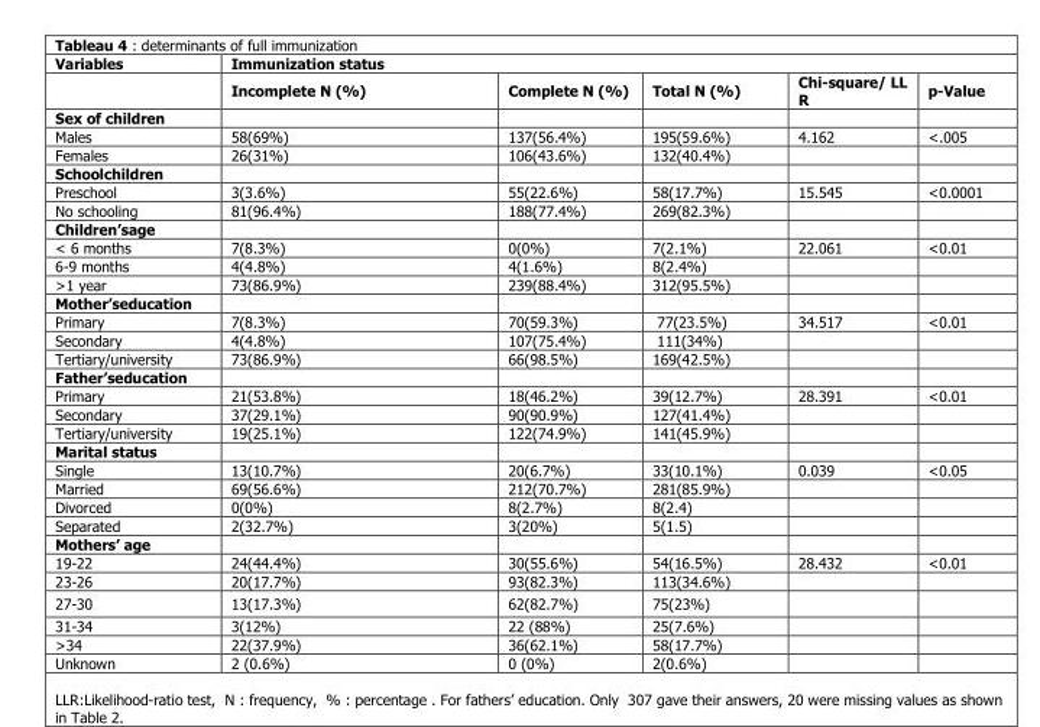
<table><thead><tr><td rowspan="2">Variables</td><td colspan="5">Immunization status</td></tr><tr><td>Incomplete N (%)</td><td>Complete N (%)</td><td>Total N (%)</td><td>Chi-square/ LL R</td><td>p-Value</td></tr></thead><tbody><tr><td colspan="6">Sex of children</td></tr><tr><td>Males</td><td>58(69%)</td><td>137(56.4%)</td><td>195(59.6%)</td><td>4.162</td><td>&lt;.005</td></tr><tr><td>Females</td><td>26(31%)</td><td>106(43.6%)</td><td>132(40.4%)</td><td></td><td></td></tr><tr><td colspan="6">Schoolchildren</td></tr><tr><td>Preschool</td><td>3(3.6%)</td><td>55(22.6%)</td><td>58(17.7%)</td><td>15.545</td><td>&lt;0.0001</td></tr><tr><td>No schooling</td><td>81(96.4%)</td><td>188(77.4%)</td><td>269(82.3%)</td><td></td><td></td></tr><tr><td colspan="6">Children’sage</td></tr><tr><td>&lt; 6 months</td><td>7(8.3%)</td><td>0(0%)</td><td>7(2.1%)</td><td>22.061</td><td>&lt;0.01</td></tr><tr><td>6-9 months</td><td>4(4.8%)</td><td>4(1.6%)</td><td>8(2.4%)</td><td></td><td></td></tr><tr><td>&gt;1 year</td><td>73(86.9%)</td><td>239(88.4%)</td><td>312(95.5%)</td><td></td><td></td></tr><tr><td colspan="6">Mother’seducation</td></tr><tr><td>Primary</td><td>7(8.3%)</td><td>70(59.3%)</td><td>77(23.5%)</td><td>34.517</td><td>&lt;0.01</td></tr><tr><td>Secondary</td><td>4(4.8%)</td><td>107(75.4%)</td><td>111(34%)</td><td></td><td></td></tr><tr><td>Tertiary/university</td><td>73(86.9%)</td><td>66(98.5%)</td><td>169(42.5%)</td><td></td><td></td></tr><tr><td colspan="6">Father’seducation</td></tr><tr><td>Primary</td><td>21(53.8%)</td><td>18(46.2%)</td><td>39(12.7%)</td><td>28.391</td><td>&lt;0.01</td></tr><tr><td>Secondary</td><td>37(29.1%)</td><td>90(90.9%)</td><td>127(41.4%)</td><td></td><td></td></tr><tr><td>Tertiary/university</td><td>19(25.1%)</td><td>122(74.9%)</td><td>141(45.9%)</td><td></td><td></td></tr><tr><td colspan="6">Marital status</td></tr><tr><td>Single</td><td>13(10.7%)</td><td>20(6.7%)</td><td>33(10.1%)</td><td>0.039</td><td>&lt;0.05</td></tr><tr><td>Married</td><td>69(56.6%)</td><td>212(70.7%)</td><td>281(85.9%)</td><td></td><td></td></tr><tr><td>Divorced</td><td>0(0%)</td><td>8(2.7%)</td><td>8(2.4)</td><td></td><td></td></tr><tr><td>Separated</td><td>2(32.7%)</td><td>3(20%)</td><td>5(1.5)</td><td></td><td></td></tr><tr><td colspan="6">Mothers’ age</td></tr><tr><td>19-22</td><td>24(44.4%)</td><td>30(55.6%)</td><td>54(16.5%)</td><td>28.432</td><td>&lt;0.01</td></tr><tr><td>23-26</td><td>20(17.7%)</td><td>93(82.3%)</td><td>113(34.6%)</td><td></td><td></td></tr><tr><td>27-30</td><td>13(17.3%)</td><td>62(82.7%)</td><td>75(23%)</td><td></td><td></td></tr><tr><td>31-34</td><td>3(12%)</td><td>22 (88%)</td><td>25(7.6%)</td><td></td><td></td></tr><tr><td>&gt;34</td><td>22(37.9%)</td><td>36(62.1%)</td><td>58(17.7%)</td><td></td><td></td></tr><tr><td>Unknown</td><td>2 (0.6%)</td><td>0 (0%)</td><td>2(0.6%)</td><td></td><td></td></tr></tbody></table>